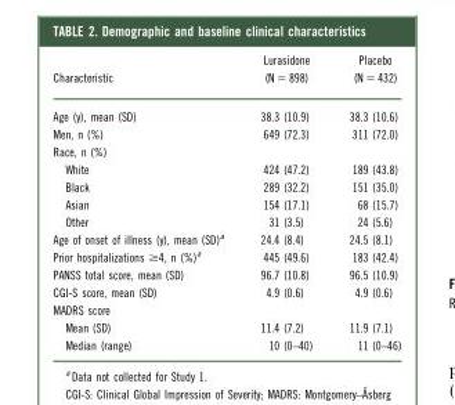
<table><thead><tr><td>Characteristic</td><td>Lurasidone (N = 898)</td><td>Placebo (N = 432)</td></tr></thead><tbody><tr><td>Age (y), mean (SD)</td><td>38.3 (10.9)</td><td>38.3 (10.6)</td></tr><tr><td>Men, n (%)</td><td>649 (72.3)</td><td>311 (72.0)</td></tr><tr><td colspan="3">Race, n (%)</td></tr><tr><td>White</td><td>424 (47.2)</td><td>189 (43.8)</td></tr><tr><td>Black</td><td>289 (32.2)</td><td>151 (35.0)</td></tr><tr><td>Asian</td><td>154 (17.1)</td><td>68 (15.7)</td></tr><tr><td>Other</td><td>31 (3.5)</td><td>24 (5.6)</td></tr><tr><td>Age of onset of illness (y), mean (SD)<sup>a</sup></td><td>24.4 (8.4)</td><td>24.5 (8.1)</td></tr><tr><td>Prior hospitalizations ≥4, n (%)<sup>a</sup></td><td>445 (49.6)</td><td>183 (42.4)</td></tr><tr><td>PANSS total score, mean (SD)</td><td>96.7 (10.8)</td><td>96.5 (10.9)</td></tr><tr><td>CGI-S score, mean (SD)</td><td>4.9 (0.6)</td><td>4.9 (0.6)</td></tr><tr><td colspan="3">MADRS score</td></tr><tr><td>Mean (SD)</td><td>11.4 (7.2)</td><td>11.9 (7.1)</td></tr><tr><td>Median (range)</td><td>10 (0–40)</td><td>11 (0–46)</td></tr></tbody></table>